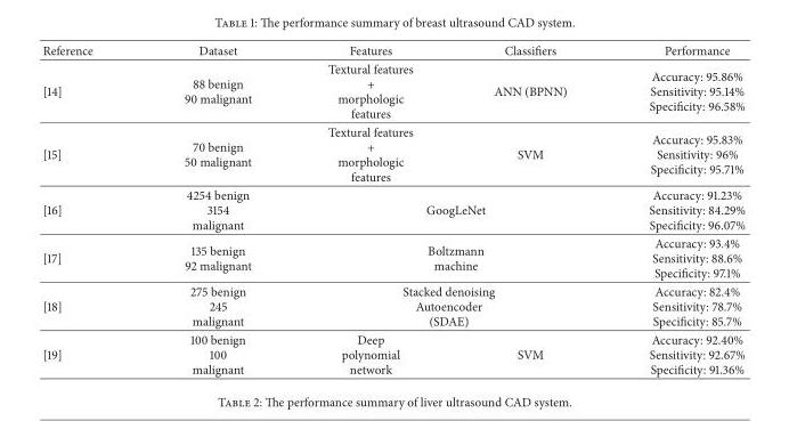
<table><thead><tr><td>Reference</td><td>Dataset</td><td>Features</td><td>Classifiers</td><td>Performance</td></tr></thead><tbody><tr><td>[14]</td><td>88 benign 90 malignant</td><td>Textural features + morphologic features</td><td>ANN (BPNN)</td><td>Accuracy: 95.86% Sensitivity: 95.14% Specificity: 96.58%</td></tr><tr><td>[15]</td><td>70 benign 50 malignant</td><td>Textural features + morphologic features</td><td>SVM</td><td>Accuracy: 95.83% Sensitivity: 96% Specificity: 95.71%</td></tr><tr><td>[16]</td><td>4254 benign 3154 malignant</td><td colspan="2">GoogLeNet</td><td>Accuracy: 91.23% Sensitivity: 84.29% Specificity: 96.07%</td></tr><tr><td>[17]</td><td>135 benign 92 malignant</td><td colspan="2">Boltzmann machine</td><td>Accuracy: 93.4% Sensitivity: 88.6% Specificity: 97.1%</td></tr><tr><td>[18]</td><td>275 benign 245 malignant</td><td colspan="2">Stacked denoising Autoencoder (SDAE)</td><td>Accuracy: 82.4% Sensitivity: 78.7% Specificity: 85.7%</td></tr><tr><td>[19]</td><td>100 benign 100 malignant</td><td>Deep polynomial network</td><td>SVM</td><td>Accuracy: 92.40% Sensitivity: 92.67% Specificity: 91.36%</td></tr></tbody></table>